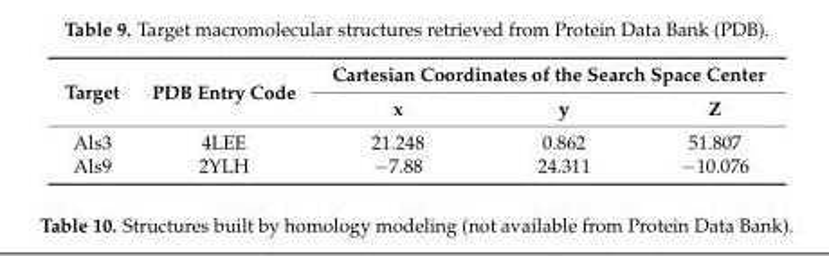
<table><thead><tr><td rowspan="2">Target</td><td rowspan="2">PDB Entry Code</td><td colspan="3">Cartesian Coordinates of the Search Space Center</td></tr><tr><td>x</td><td>y</td><td>Z</td></tr></thead><tbody><tr><td>Als3</td><td>4LEE</td><td>21.248</td><td>0.862</td><td>51.807</td></tr><tr><td>Als9</td><td>2YLH</td><td>−7.88</td><td>24.311</td><td>−10.076</td></tr></tbody></table>